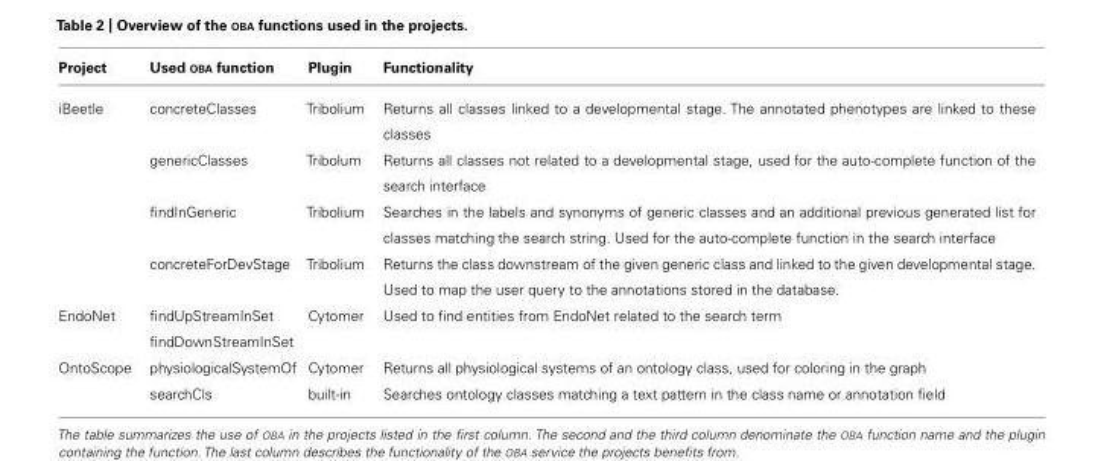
<table><thead><tr><td>Project</td><td>Used OBA function</td><td>Plugin</td><td>Functionality</td></tr></thead><tbody><tr><td rowspan="4">iBeetle</td><td>concreteClasses</td><td>Tribolium</td><td>Returns all classes linked to a developmental stage. The annotated phenotypes are linked to these classes</td></tr><tr><td>genericClasses</td><td>Tribolum</td><td>Returns all classes not related to a developmental stage, used for the auto-complete function of the search interface</td></tr><tr><td>findInGeneric</td><td>Tribolium</td><td>Searches in the labels and synonyms of generic classes and an additional previous generated list for classes matching the search string. Used for the auto-complete function in the search interface</td></tr><tr><td>concreteForDevStage</td><td>Tribolium</td><td>Returns the class downstream of the given generic class and linked to the given developmental stage. Used to map the user query to the annotations stored in the database.</td></tr><tr><td>EndoNet</td><td>findUpStreamInSet findDownStreamInSet</td><td>Cytomer</td><td>Used to find entities from EndoNet related to the search term</td></tr><tr><td rowspan="2">OntoScope</td><td>physiologicalSystemOf</td><td>Cytomer</td><td>Returns all physiological systems of an ontology class, used for coloring in the graph</td></tr><tr><td>searchCls</td><td>built-in</td><td>Searches ontology classes matching a text pattern in the class name or annotation field</td></tr></tbody></table>